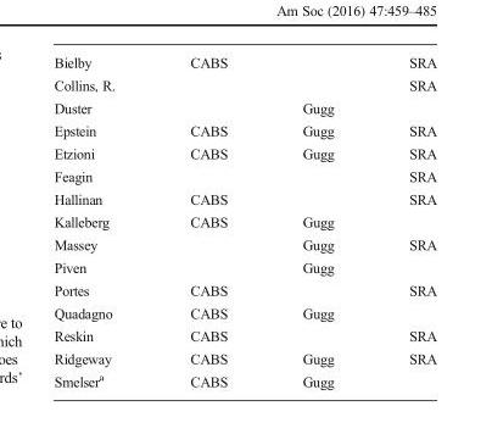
<table><tbody><tr><td>Bielby</td><td>CABS</td><td></td><td>SRA</td></tr><tr><td>Collins, R.</td><td></td><td></td><td>SRA</td></tr><tr><td>Duster</td><td></td><td>Gugg</td><td></td></tr><tr><td>Epstein</td><td>CABS</td><td>Gugg</td><td>SRA</td></tr><tr><td>Etzioni</td><td>CABS</td><td>Gugg</td><td>SRA</td></tr><tr><td>Feagin</td><td></td><td></td><td>SRA</td></tr><tr><td>Hallinan</td><td>CABS</td><td></td><td>SRA</td></tr><tr><td>Kalleberg</td><td>CABS</td><td>Gugg</td><td></td></tr><tr><td>Massey</td><td></td><td>Gugg</td><td>SRA</td></tr><tr><td>Piven</td><td></td><td>Gugg</td><td></td></tr><tr><td>Portes</td><td>CABS</td><td></td><td>SRA</td></tr><tr><td>Quadagno</td><td>CABS</td><td>Gugg</td><td></td></tr><tr><td>Reskin</td><td>CABS</td><td></td><td>SRA</td></tr><tr><td>Ridgeway</td><td>CABS</td><td>Gugg</td><td>SRA</td></tr><tr><td>Smelser<sup>a</sup></td><td>CABS</td><td>Gugg</td><td></td></tr></tbody></table>